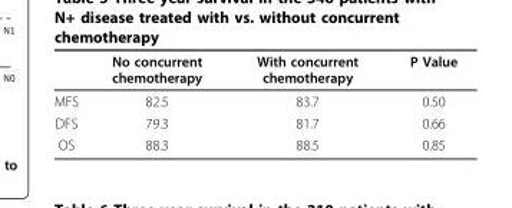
<table><thead><tr><td></td><td>No concurrent chemotherapy</td><td>With concurrent chemotherapy</td><td>P Value</td></tr></thead><tbody><tr><td>MFS</td><td>82.5</td><td>83.7</td><td>0.50</td></tr><tr><td>DFS</td><td>79.3</td><td>81.7</td><td>0.66</td></tr><tr><td>OS</td><td>88.3</td><td>88.5</td><td>0.85</td></tr></tbody></table>